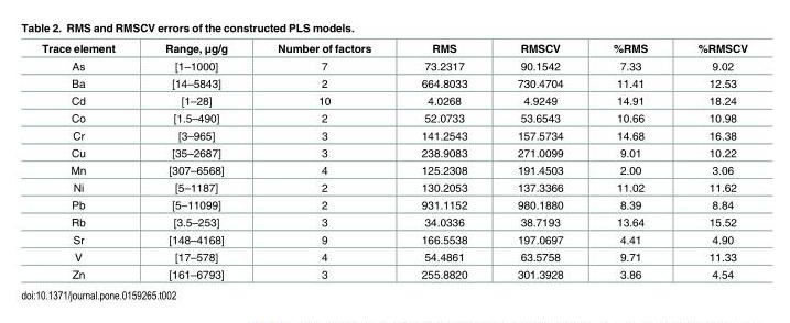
<table><thead><tr><td>Trace element</td><td>Range, μg/g</td><td>Number of factors</td><td>RMS</td><td>RMSCV</td><td>%RMS</td><td>%RMSCV</td></tr></thead><tbody><tr><td>As</td><td>[1–1000]</td><td>7</td><td>73.2317</td><td>90.1542</td><td>7.33</td><td>9.02</td></tr><tr><td>Ba</td><td>[14–5843]</td><td>2</td><td>664.8033</td><td>730.4704</td><td>11.41</td><td>12.53</td></tr><tr><td>Cd</td><td>[1–28]</td><td>10</td><td>4.0268</td><td>4.9249</td><td>14.91</td><td>18.24</td></tr><tr><td>Co</td><td>[1.5–490]</td><td>2</td><td>52.0733</td><td>53.6543</td><td>10.66</td><td>10.98</td></tr><tr><td>Cr</td><td>[3–965]</td><td>3</td><td>141.2543</td><td>157.5734</td><td>14.68</td><td>16.38</td></tr><tr><td>Cu</td><td>[35–2687]</td><td>3</td><td>238.9083</td><td>271.0099</td><td>9.01</td><td>10.22</td></tr><tr><td>Mn</td><td>[307–6568]</td><td>4</td><td>125.2308</td><td>191.4503</td><td>2.00</td><td>3.06</td></tr><tr><td>Ni</td><td>[5–1187]</td><td>2</td><td>130.2053</td><td>137.3366</td><td>11.02</td><td>11.62</td></tr><tr><td>Pb</td><td>[5–11099]</td><td>2</td><td>931.1152</td><td>980.1880</td><td>8.39</td><td>8.84</td></tr><tr><td>Rb</td><td>[3.5–253]</td><td>3</td><td>34.0336</td><td>38.7193</td><td>13.64</td><td>15.52</td></tr><tr><td>Sr</td><td>[148–4168]</td><td>9</td><td>166.5538</td><td>197.0697</td><td>4.41</td><td>4.90</td></tr><tr><td>V</td><td>[17–578]</td><td>4</td><td>54.4861</td><td>63.5758</td><td>9.71</td><td>11.33</td></tr><tr><td>Zn</td><td>[161–6793]</td><td>3</td><td>255.8820</td><td>301.3928</td><td>3.86</td><td>4.54</td></tr></tbody></table>